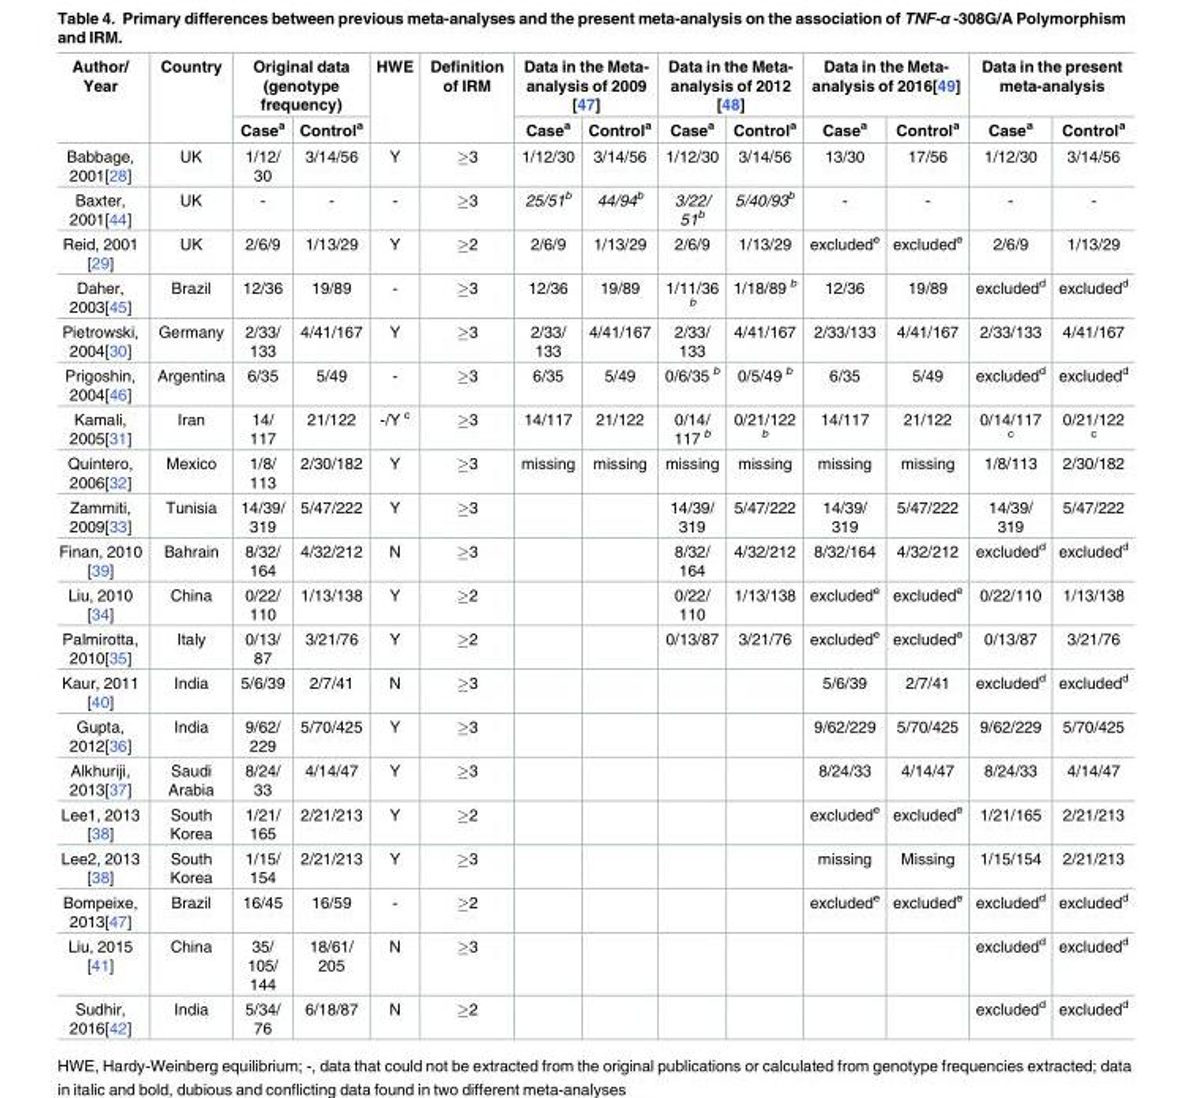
<table><thead><tr><td rowspan="2">Author/ Year</td><td rowspan="2">Country</td><td colspan="2">Original data (genotype frequency)</td><td rowspan="2">HWE</td><td rowspan="2">Definition of IRM</td><td colspan="2">Data in the Meta- analysis of 2009 [47]</td><td colspan="2">Data in the Meta- analysis of 2012 [48]</td><td colspan="2">Data in the Meta- analysis of 2016[49]</td><td colspan="2">Data in the present meta-analysis</td></tr><tr><td>Case<sup>a</sup></td><td>Control<sup>a</sup></td><td>Case<sup>a</sup></td><td>Control<sup>a</sup></td><td>Case<sup>a</sup></td><td>Control<sup>a</sup></td><td>Case<sup>a</sup></td><td>Control<sup>a</sup></td><td>Case<sup>a</sup></td><td>Control<sup>a</sup></td></tr></thead><tbody><tr><td>Babbage, 2001[28]</td><td>UK</td><td>1/12/ 30</td><td>3/14/56</td><td>Y</td><td>≥3</td><td>1/12/30</td><td>3/14/56</td><td>1/12/30</td><td>3/14/56</td><td>13/30</td><td>17/56</td><td>1/12/30</td><td>3/14/56</td></tr><tr><td>Baxter, 2001[44]</td><td>UK</td><td>-</td><td>-</td><td>-</td><td>≥3</td><td>25/51<sup>b</sup></td><td>44/94<sup>b</sup></td><td>3/22/ 51<sup>b</sup></td><td>5/40/93<sup>b</sup></td><td>-</td><td>-</td><td>-</td><td>-</td></tr><tr><td>Reid, 2001 [29]</td><td>UK</td><td>2/6/9</td><td>1/13/29</td><td>Y</td><td>≥2</td><td>2/6/9</td><td>1/13/29</td><td>2/6/9</td><td>1/13/29</td><td>excluded<sup>e</sup></td><td>excluded<sup>e</sup></td><td>2/6/9</td><td>1/13/29</td></tr><tr><td>Daher, 2003[45]</td><td>Brazil</td><td>12/36</td><td>19/89</td><td>-</td><td>≥3</td><td>12/36</td><td>19/89</td><td>1/11/36 <sup>b</sup></td><td>1/18/89 <sup>b</sup></td><td>12/36</td><td>19/89</td><td>excluded<sup>d</sup></td><td>excluded<sup>d</sup></td></tr><tr><td>Pietrowski, 2004[30]</td><td>Germany</td><td>2/33/ 133</td><td>4/41/167</td><td>Y</td><td>≥3</td><td>2/33/ 133</td><td>4/41/167</td><td>2/33/ 133</td><td>4/41/167</td><td>2/33/133</td><td>4/41/167</td><td>2/33/133</td><td>4/41/167</td></tr><tr><td>Prigoshin, 2004[46]</td><td>Argentina</td><td>6/35</td><td>5/49</td><td>-</td><td>≥3</td><td>6/35</td><td>5/49</td><td>0/6/35 <sup>b</sup></td><td>0/5/49 <sup>b</sup></td><td>6/35</td><td>5/49</td><td>excluded<sup>d</sup></td><td>excluded<sup>d</sup></td></tr><tr><td>Kamali, 2005[31]</td><td>Iran</td><td>14/ 117</td><td>21/122</td><td>-/Y <sup>c</sup></td><td>≥3</td><td>14/117</td><td>21/122</td><td>0/14/ 117 <sup>b</sup></td><td>0/21/122 <sup>b</sup></td><td>14/117</td><td>21/122</td><td>0/14/117 <sup>c</sup></td><td>0/21/122 <sup>c</sup></td></tr><tr><td>Quintero, 2006[32]</td><td>Mexico</td><td>1/8/ 113</td><td>2/30/182</td><td>Y</td><td>≥3</td><td>missing</td><td>missing</td><td>missing</td><td>missing</td><td>missing</td><td>missing</td><td>1/8/113</td><td>2/30/182</td></tr><tr><td>Zammiti, 2009[33]</td><td>Tunisia</td><td>14/39/ 319</td><td>5/47/222</td><td>Y</td><td>≥3</td><td></td><td></td><td>14/39/ 319</td><td>5/47/222</td><td>14/39/ 319</td><td>5/47/222</td><td>14/39/ 319</td><td>5/47/222</td></tr><tr><td>Finan, 2010 [39]</td><td>Bahrain</td><td>8/32/ 164</td><td>4/32/212</td><td>N</td><td>≥3</td><td></td><td></td><td>8/32/ 164</td><td>4/32/212</td><td>8/32/164</td><td>4/32/212</td><td>excluded<sup>d</sup></td><td>excluded<sup>d</sup></td></tr><tr><td>Liu, 2010 [34]</td><td>China</td><td>0/22/ 110</td><td>1/13/138</td><td>Y</td><td>≥2</td><td></td><td></td><td>0/22/ 110</td><td>1/13/138</td><td>excluded<sup>e</sup></td><td>excluded<sup>e</sup></td><td>0/22/110</td><td>1/13/138</td></tr><tr><td>Palmirotta, 2010[35]</td><td>Italy</td><td>0/13/ 87</td><td>3/21/76</td><td>Y</td><td>≥2</td><td></td><td></td><td>0/13/87</td><td>3/21/76</td><td>excluded<sup>e</sup></td><td>excluded<sup>e</sup></td><td>0/13/87</td><td>3/21/76</td></tr><tr><td>Kaur, 2011 [40]</td><td>India</td><td>5/6/39</td><td>2/7/41</td><td>N</td><td>≥3</td><td></td><td></td><td></td><td></td><td>5/6/39</td><td>2/7/41</td><td>excluded<sup>d</sup></td><td>excluded<sup>d</sup></td></tr><tr><td>Gupta, 2012[36]</td><td>India</td><td>9/62/ 229</td><td>5/70/425</td><td>Y</td><td>≥3</td><td></td><td></td><td></td><td></td><td>9/62/229</td><td>5/70/425</td><td>9/62/229</td><td>5/70/425</td></tr><tr><td>Alkhuriji, 2013[37]</td><td>Saudi Arabia</td><td>8/24/ 33</td><td>4/14/47</td><td>Y</td><td>≥3</td><td></td><td></td><td></td><td></td><td>8/24/33</td><td>4/14/47</td><td>8/24/33</td><td>4/14/47</td></tr><tr><td>Lee1, 2013 [38]</td><td>South Korea</td><td>1/21/ 165</td><td>2/21/213</td><td>Y</td><td>≥2</td><td></td><td></td><td></td><td></td><td>excluded<sup>e</sup></td><td>excluded<sup>e</sup></td><td>1/21/165</td><td>2/21/213</td></tr><tr><td>Lee2, 2013 [38]</td><td>South Korea</td><td>1/15/ 154</td><td>2/21/213</td><td>Y</td><td>≥3</td><td></td><td></td><td></td><td></td><td>missing</td><td>Missing</td><td>1/15/154</td><td>2/21/213</td></tr><tr><td>Bompeixe, 2013[47]</td><td>Brazil</td><td>16/45</td><td>16/59</td><td>-</td><td>≥2</td><td></td><td></td><td></td><td></td><td>excluded<sup>e</sup></td><td>excluded<sup>e</sup></td><td>excluded<sup>d</sup></td><td>excluded<sup>d</sup></td></tr><tr><td>Liu, 2015 [41]</td><td>China</td><td>35/ 105/ 144</td><td>18/61/ 205</td><td>N</td><td>≥3</td><td></td><td></td><td></td><td></td><td></td><td></td><td>excluded<sup>d</sup></td><td>excluded<sup>d</sup></td></tr><tr><td>Sudhir, 2016[42]</td><td>India</td><td>5/34/ 76</td><td>6/18/87</td><td>N</td><td>≥2</td><td></td><td></td><td></td><td></td><td></td><td></td><td>excluded<sup>d</sup></td><td>excluded<sup>d</sup></td></tr></tbody></table>